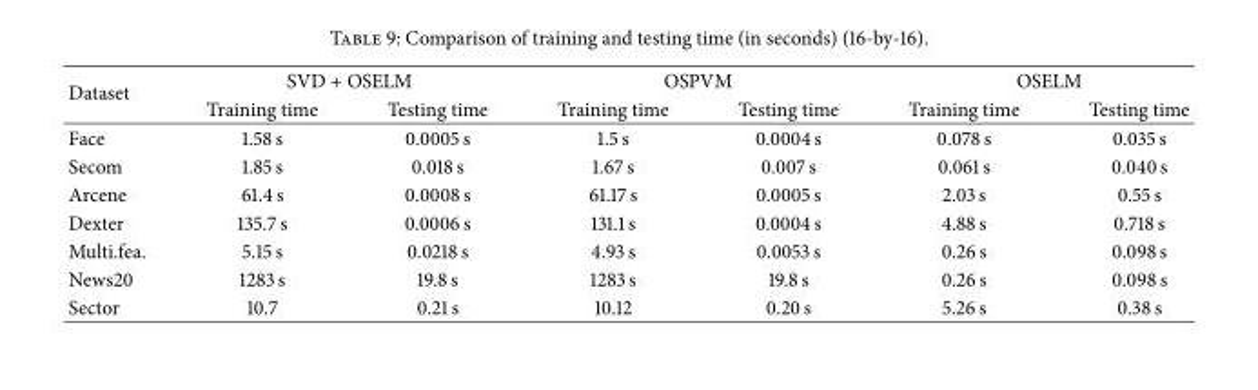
<table><thead><tr><td rowspan="2">Dataset</td><td colspan="2">SVD + OSELM</td><td colspan="2">OSPVM</td><td colspan="2">OSELM</td></tr><tr><td>Training time</td><td>Testing time</td><td>Training time</td><td>Testing time</td><td>Training time</td><td>Testing time</td></tr></thead><tbody><tr><td>Face</td><td>1.58 s</td><td>0.0005 s</td><td>1.5 s</td><td>0.0004 s</td><td>0.078 s</td><td>0.035 s</td></tr><tr><td>Secom</td><td>1.85 s</td><td>0.018 s</td><td>1.67 s</td><td>0.007 s</td><td>0.061 s</td><td>0.040 s</td></tr><tr><td>Arcene</td><td>61.4 s</td><td>0.0008 s</td><td>61.17 s</td><td>0.0005 s</td><td>2.03 s</td><td>0.55 s</td></tr><tr><td>Dexter</td><td>135.7 s</td><td>0.0006 s</td><td>131.1 s</td><td>0.0004 s</td><td>4.88 s</td><td>0.718 s</td></tr><tr><td>Multi.fea.</td><td>5.15 s</td><td>0.0218 s</td><td>4.93 s</td><td>0.0053 s</td><td>0.26 s</td><td>0.098 s</td></tr><tr><td>News20</td><td>1283 s</td><td>19.8 s</td><td>1283 s</td><td>19.8 s</td><td>0.26 s</td><td>0.098 s</td></tr><tr><td>Sector</td><td>10.7</td><td>0.21 s</td><td>10.12</td><td>0.20 s</td><td>5.26 s</td><td>0.38 s</td></tr></tbody></table>